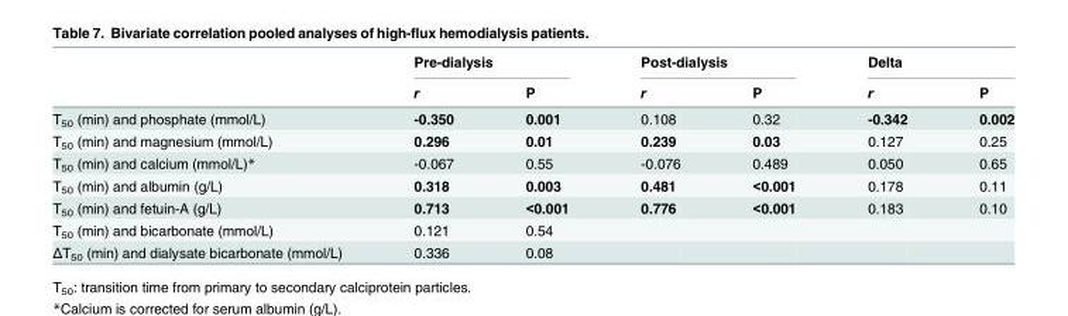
<table><thead><tr><td rowspan="2"></td><td colspan="2">Pre-dialysis</td><td colspan="2">Post-dialysis</td><td colspan="2">Delta</td></tr><tr><td>r</td><td>P</td><td>r</td><td>P</td><td>r</td><td>P</td></tr></thead><tbody><tr><td>T<sub>50</sub> (min) and phosphate (mmol/L)</td><td>-0.350</td><td>0.001</td><td>0.108</td><td>0.32</td><td>-0.342</td><td>0.002</td></tr><tr><td>T<sub>50</sub> (min) and magnesium (mmol/L)</td><td>0.296</td><td>0.01</td><td>0.239</td><td>0.03</td><td>0.127</td><td>0.25</td></tr><tr><td>T<sub>50</sub> (min) and calcium (mmol/L)*</td><td>-0.067</td><td>0.55</td><td>-0.076</td><td>0.489</td><td>0.050</td><td>0.65</td></tr><tr><td>T<sub>50</sub> (min) and albumin (g/L)</td><td>0.318</td><td>0.003</td><td>0.481</td><td>&lt;0.001</td><td>0.178</td><td>0.11</td></tr><tr><td>T<sub>50</sub> (min) and fetuin-A (g/L)</td><td>0.713</td><td>&lt;0.001</td><td>0.776</td><td>&lt;0.001</td><td>0.183</td><td>0.10</td></tr><tr><td>T<sub>50</sub> (min) and bicarbonate (mmol/L)</td><td>0.121</td><td>0.54</td><td></td><td></td><td></td><td></td></tr><tr><td>ΔT<sub>50</sub> (min) and dialysate bicarbonate (mmol/L)</td><td>0.336</td><td>0.08</td><td></td><td></td><td></td><td></td></tr></tbody></table>